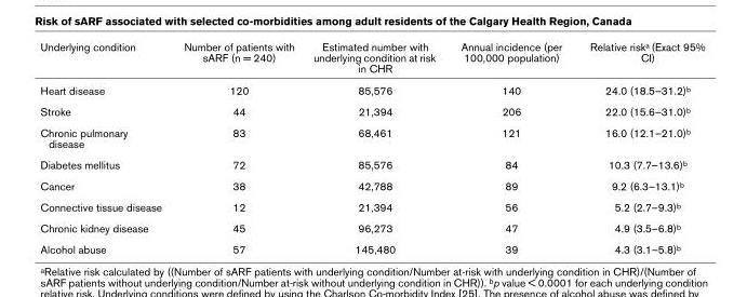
<table><thead><tr><td>Underlying condition</td><td>Number of patients with sARF (n = 240)</td><td>Estimated number with underlying condition at risk in CHR</td><td>Annual incidence (per 100,000 population)</td><td>Relative riska (Exact 95% CI)</td></tr></thead><tbody><tr><td>Heart disease</td><td>120</td><td>85,576</td><td>140</td><td>24.0 (18.5–31.2)b</td></tr><tr><td>Stroke</td><td>44</td><td>21,394</td><td>206</td><td>22.0 (15.6–31.0)b</td></tr><tr><td>Chronic pulmonary disease</td><td>83</td><td>68,461</td><td>121</td><td>16.0 (12.1–21.0)b</td></tr><tr><td>Diabetes mellitus</td><td>72</td><td>85,576</td><td>84</td><td>10.3 (7.7–13.6)b</td></tr><tr><td>Cancer</td><td>38</td><td>42,788</td><td>89</td><td>9.2 (6.3–13.1)b</td></tr><tr><td>Connective tissue disease</td><td>12</td><td>21,394</td><td>56</td><td>5.2 (2.7–9.3)b</td></tr><tr><td>Chronic kidney disease</td><td>45</td><td>96,273</td><td>47</td><td>4.9 (3.5–6.8)b</td></tr><tr><td>Alcohol abuse</td><td>57</td><td>145,480</td><td>39</td><td>4.3 (3.1–5.8)b</td></tr></tbody></table>